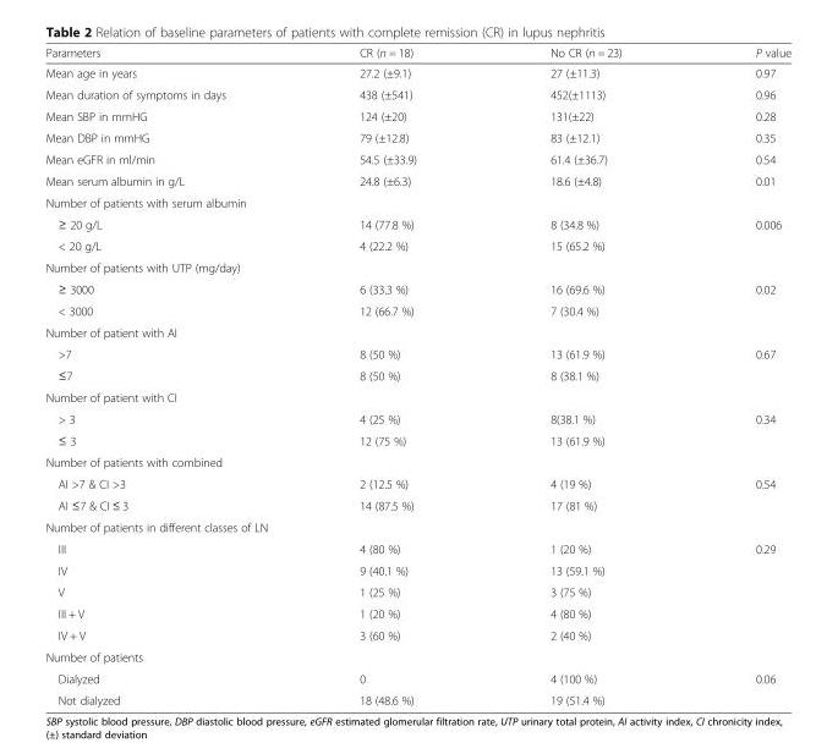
<table><thead><tr><td>Parameters</td><td>CR (n = 18)</td><td>No CR (n = 23)</td><td>P value</td></tr></thead><tbody><tr><td>Mean age in years</td><td>27.2 (±9.1)</td><td>27 (±11.3)</td><td>0.97</td></tr><tr><td>Mean duration of symptoms in days</td><td>438 (±541)</td><td>452(±1113)</td><td>0.96</td></tr><tr><td>Mean SBP in mmHG</td><td>124 (±20)</td><td>131(±22)</td><td>0.28</td></tr><tr><td>Mean DBP in mmHG</td><td>79 (±12.8)</td><td>83 (±12.1)</td><td>0.35</td></tr><tr><td>Mean eGFR in ml/min</td><td>54.5 (±33.9)</td><td>61.4 (±36.7)</td><td>0.54</td></tr><tr><td>Mean serum albumin in g/L</td><td>24.8 (±6.3)</td><td>18.6 (±4.8)</td><td>0.01</td></tr><tr><td colspan="4">Number of patients with serum albumin</td></tr><tr><td>≥ 20 g/L</td><td>14 (77.8 %)</td><td>8 (34.8 %)</td><td>0.006</td></tr><tr><td>&lt; 20 g/L</td><td>4 (22.2 %)</td><td>15 (65.2 %)</td><td></td></tr><tr><td colspan="4">Number of patients with UTP (mg/day)</td></tr><tr><td>≥ 3000</td><td>6 (33.3 %)</td><td>16 (69.6 %)</td><td>0.02</td></tr><tr><td>&lt; 3000</td><td>12 (66.7 %)</td><td>7 (30.4 %)</td><td></td></tr><tr><td colspan="4">Number of patient with AI</td></tr><tr><td>&gt;7</td><td>8 (50 %)</td><td>13 (61.9 %)</td><td>0.67</td></tr><tr><td>≤7</td><td>8 (50 %)</td><td>8 (38.1 %)</td><td></td></tr><tr><td colspan="4">Number of patient with CI</td></tr><tr><td>&gt; 3</td><td>4 (25 %)</td><td>8(38.1 %)</td><td>0.34</td></tr><tr><td>≤ 3</td><td>12 (75 %)</td><td>13 (61.9 %)</td><td></td></tr><tr><td colspan="4">Number of patients with combined</td></tr><tr><td>AI &gt;7 &amp; CI &gt;3</td><td>2 (12.5 %)</td><td>4 (19 %)</td><td>0.54</td></tr><tr><td>AI ≤7 &amp; CI ≤ 3</td><td>14 (87.5 %)</td><td>17 (81 %)</td><td></td></tr><tr><td colspan="4">Number of patients in different classes of LN</td></tr><tr><td>III</td><td>4 (80 %)</td><td>1 (20 %)</td><td>0.29</td></tr><tr><td>IV</td><td>9 (40.1 %)</td><td>13 (59.1 %)</td><td></td></tr><tr><td>V</td><td>1 (25 %)</td><td>3 (75 %)</td><td></td></tr><tr><td>III + V</td><td>1 (20 %)</td><td>4 (80 %)</td><td></td></tr><tr><td>IV + V</td><td>3 (60 %)</td><td>2 (40 %)</td><td></td></tr><tr><td colspan="4">Number of patients</td></tr><tr><td>Dialyzed</td><td>0</td><td>4 (100 %)</td><td>0.06</td></tr><tr><td>Not dialyzed</td><td>18 (48.6 %)</td><td>19 (51.4 %)</td><td></td></tr></tbody></table>